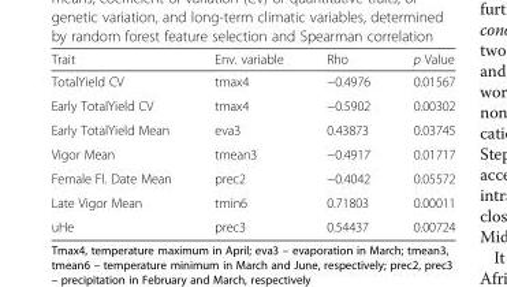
<table><thead><tr><td>Trait</td><td>Env. variable</td><td>Rho</td><td>p Value</td></tr></thead><tbody><tr><td>TotalYield CV</td><td>tmax4</td><td>−0.4976</td><td>0.01567</td></tr><tr><td>Early TotalYield CV</td><td>tmax4</td><td>−0.5902</td><td>0.00302</td></tr><tr><td>Early TotalYield Mean</td><td>eva3</td><td>0.43873</td><td>0.03745</td></tr><tr><td>Vigor Mean</td><td>tmean3</td><td>−0.4917</td><td>0.01717</td></tr><tr><td>Female Fl. Date Mean</td><td>prec2</td><td>−0.4042</td><td>0.05572</td></tr><tr><td>Late Vigor Mean</td><td>tmin6</td><td>0.71803</td><td>0.00011</td></tr><tr><td>uHe</td><td>prec3</td><td>0.54437</td><td>0.00724</td></tr></tbody></table>